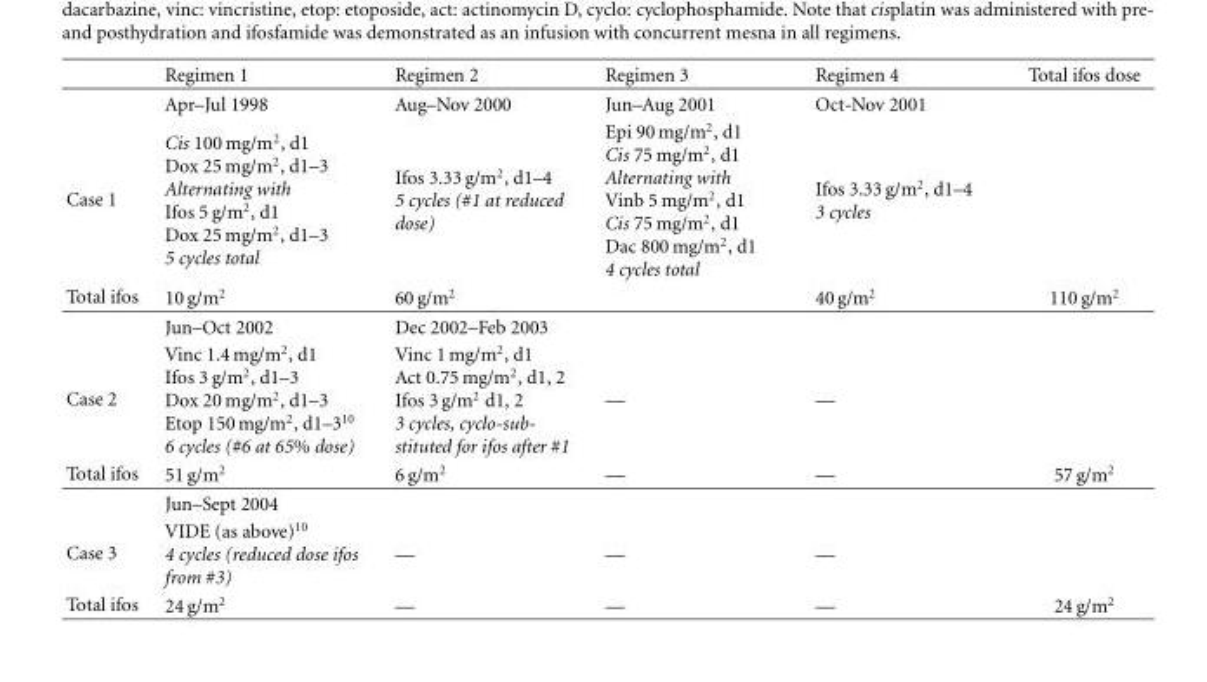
<table><thead><tr><td></td><td>Regimen 1</td><td>Regimen 2</td><td>Regimen 3</td><td>Regimen 4</td><td>Total ifos dose</td></tr></thead><tbody><tr><td></td><td>Apr–Jul 1998</td><td>Aug–Nov 2000</td><td>Jun–Aug 2001</td><td>Oct-Nov 2001</td><td></td></tr><tr><td>Case 1</td><td>Cis 100 mg/m<sup>2</sup>, d1 Dox 25 mg/m<sup>2</sup>, d1–3 Alternating with Ifos 5 g/m<sup>2</sup>, d1 Dox 25 mg/m<sup>2</sup>, d1–3 5 cycles total</td><td>Ifos 3.33 g/m<sup>2</sup>, d1–4 5 cycles (#1 at reduced dose)</td><td>Epi 90 mg/m<sup>2</sup>, d1 Cis 75 mg/m<sup>2</sup>, d1 Alternating with Vinb 5 mg/m<sup>2</sup>, d1 Cis 75 mg/m<sup>2</sup>, d1 Dac 800 mg/m<sup>2</sup>, d1 4 cycles total</td><td>Ifos 3.33 g/m<sup>2</sup>, d1–4 3 cycles</td><td></td></tr><tr><td rowspan="2">Total ifos</td><td>10 g/m<sup>2</sup></td><td>60 g/m<sup>2</sup></td><td></td><td>40 g/m<sup>2</sup></td><td>110 g/m<sup>2</sup></td></tr><tr><td>Jun–Oct 2002</td><td>Dec 2002–Feb 2003</td><td></td><td></td><td></td></tr><tr><td>Case 2</td><td>Vinc 1.4 mg/m<sup>2</sup>, d1 Ifos 3 g/m<sup>2</sup>, d1–3 Dox 20 mg/m<sup>2</sup>, d1–3 Etop 150 mg/m<sup>2</sup>, d1–3<sup>10</sup> 6 cycles (#6 at 65% dose)</td><td>Vinc 1 mg/m<sup>2</sup>, d1 Act 0.75 mg/m<sup>2</sup>, d1, 2 Ifos 3 g/m<sup>2</sup> d1, 2 3 cycles, cyclo-sub- stituted for ifos after #1</td><td>—</td><td>—</td><td></td></tr><tr><td rowspan="2">Total ifos</td><td>51 g/m<sup>2</sup></td><td>6 g/m<sup>2</sup></td><td>—</td><td>—</td><td>57 g/m<sup>2</sup></td></tr><tr><td>Jun–Sept 2004</td><td></td><td></td><td></td><td></td></tr><tr><td>Case 3</td><td>VIDE (as above)<sup>10</sup> 4 cycles (reduced dose ifos from #3)</td><td>—</td><td>—</td><td>—</td><td></td></tr><tr><td>Total ifos</td><td>24 g/m<sup>2</sup></td><td>—</td><td>—</td><td>—</td><td>24 g/m<sup>2</sup></td></tr></tbody></table>